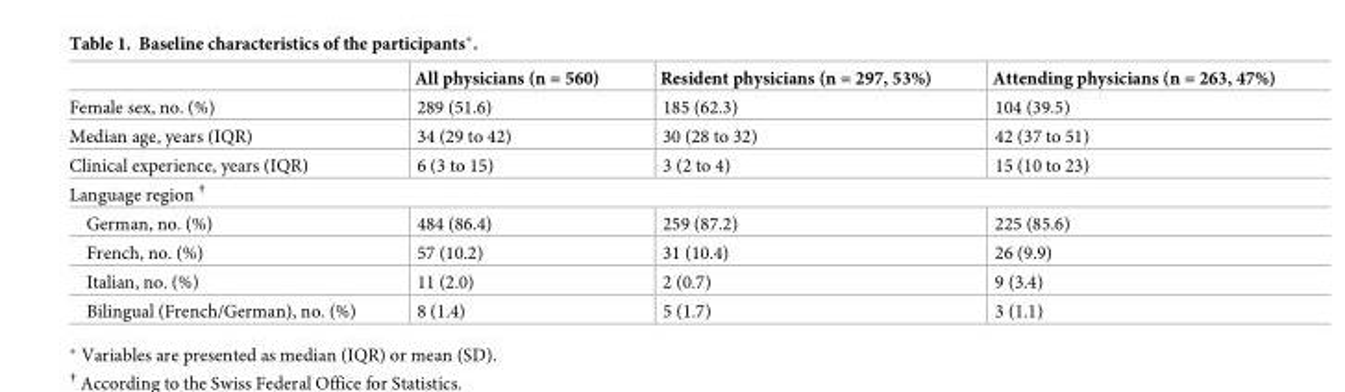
<table><thead><tr><td></td><td>All physicians (n = 560)</td><td>Resident physicians (n = 297, 53%)</td><td>Attending physicians (n = 263, 47%)</td></tr></thead><tbody><tr><td>Female sex, no. (%)</td><td>289 (51.6)</td><td>185 (62.3)</td><td>104 (39.5)</td></tr><tr><td>Median age, years (IQR)</td><td>34 (29 to 42)</td><td>30 (28 to 32)</td><td>42 (37 to 51)</td></tr><tr><td>Clinical experience, years (IQR)</td><td>6 (3 to 15)</td><td>3 (2 to 4)</td><td>15 (10 to 23)</td></tr><tr><td colspan="4">Language region <sup>†</sup></td></tr><tr><td>German, no. (%)</td><td>484 (86.4)</td><td>259 (87.2)</td><td>225 (85.6)</td></tr><tr><td>French, no. (%)</td><td>57 (10.2)</td><td>31 (10.4)</td><td>26 (9.9)</td></tr><tr><td>Italian, no. (%)</td><td>11 (2.0)</td><td>2 (0.7)</td><td>9 (3.4)</td></tr><tr><td>Bilingual (French/German), no. (%)</td><td>8 (1.4)</td><td>5 (1.7)</td><td>3 (1.1)</td></tr></tbody></table>